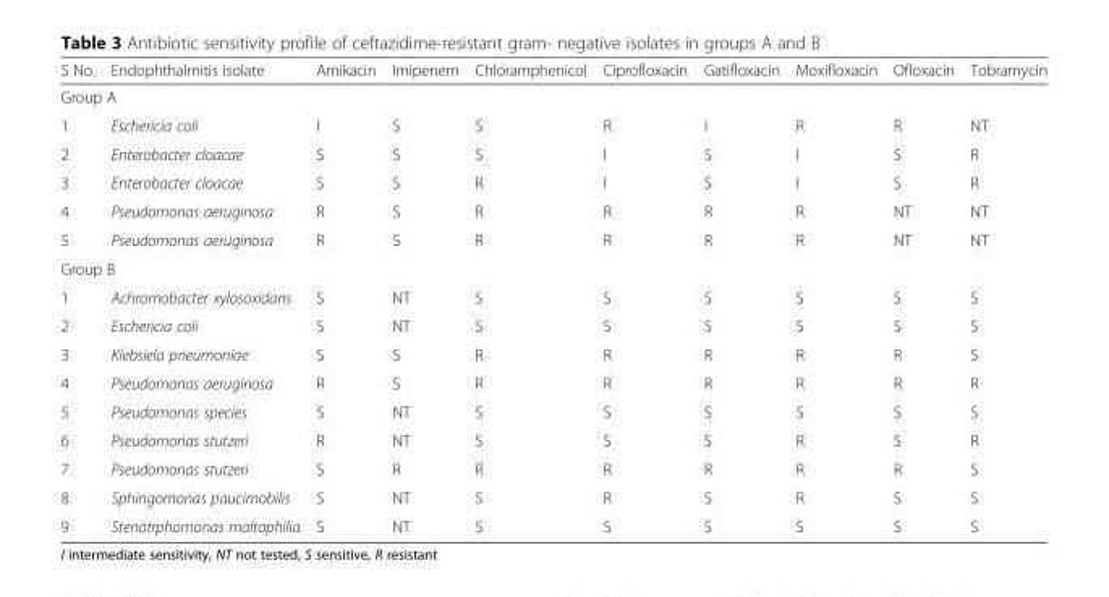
<table><thead><tr><td>S No.</td><td>Endophthalmitis isolate</td><td>Amikacin</td><td>Imipenem</td><td>Chloramphenicol</td><td>Ciprofloxacin</td><td>Gatifloxacin</td><td>Moxifloxacin</td><td>Ofloxacin</td><td>Tobramycin</td></tr></thead><tbody><tr><td colspan="10">Group A</td></tr><tr><td>1</td><td>Eschericia coli</td><td>I</td><td>S</td><td>S</td><td>R</td><td>I</td><td>R</td><td>R</td><td>NT</td></tr><tr><td>2</td><td>Enterobacter cloacae</td><td>S</td><td>S</td><td>S</td><td>I</td><td>S</td><td>I</td><td>S</td><td>R</td></tr><tr><td>3</td><td>Enterobacter cloacae</td><td>S</td><td>S</td><td>R</td><td>I</td><td>S</td><td>I</td><td>S</td><td>R</td></tr><tr><td>4</td><td>Pseudomonas aeruginosa</td><td>R</td><td>S</td><td>R</td><td>R</td><td>R</td><td>R</td><td>NT</td><td>NT</td></tr><tr><td>5</td><td>Pseudomonas aeruginosa</td><td>R</td><td>S</td><td>R</td><td>R</td><td>R</td><td>R</td><td>NT</td><td>NT</td></tr><tr><td colspan="10">Group B</td></tr><tr><td>1</td><td>Achromobacter xylosoxidans</td><td>S</td><td>NT</td><td>S</td><td>S</td><td>S</td><td>S</td><td>S</td><td>S</td></tr><tr><td>2</td><td>Eschericia coli</td><td>S</td><td>NT</td><td>S</td><td>S</td><td>S</td><td>S</td><td>S</td><td>S</td></tr><tr><td>3</td><td>Klebsiela pneumoniae</td><td>S</td><td>S</td><td>R</td><td>R</td><td>R</td><td>R</td><td>R</td><td>S</td></tr><tr><td>4</td><td>Pseudomonas aeruginosa</td><td>R</td><td>S</td><td>R</td><td>R</td><td>R</td><td>R</td><td>R</td><td>R</td></tr><tr><td>5</td><td>Pseudomonas species</td><td>S</td><td>NT</td><td>S</td><td>S</td><td>S</td><td>S</td><td>S</td><td>S</td></tr><tr><td>6</td><td>Pseudomonas stutzeri</td><td>R</td><td>NT</td><td>S</td><td>S</td><td>S</td><td>R</td><td>S</td><td>R</td></tr><tr><td>7</td><td>Pseudomonas stutzeri</td><td>S</td><td>R</td><td>R</td><td>R</td><td>R</td><td>R</td><td>R</td><td>S</td></tr><tr><td>8</td><td>Sphingomonas paucimobilis</td><td>S</td><td>NT</td><td>S</td><td>R</td><td>S</td><td>R</td><td>S</td><td>S</td></tr><tr><td>9</td><td>Stenotrphomonas maltophilia</td><td>S</td><td>NT</td><td>S</td><td>S</td><td>S</td><td>S</td><td>S</td><td>S</td></tr></tbody></table>